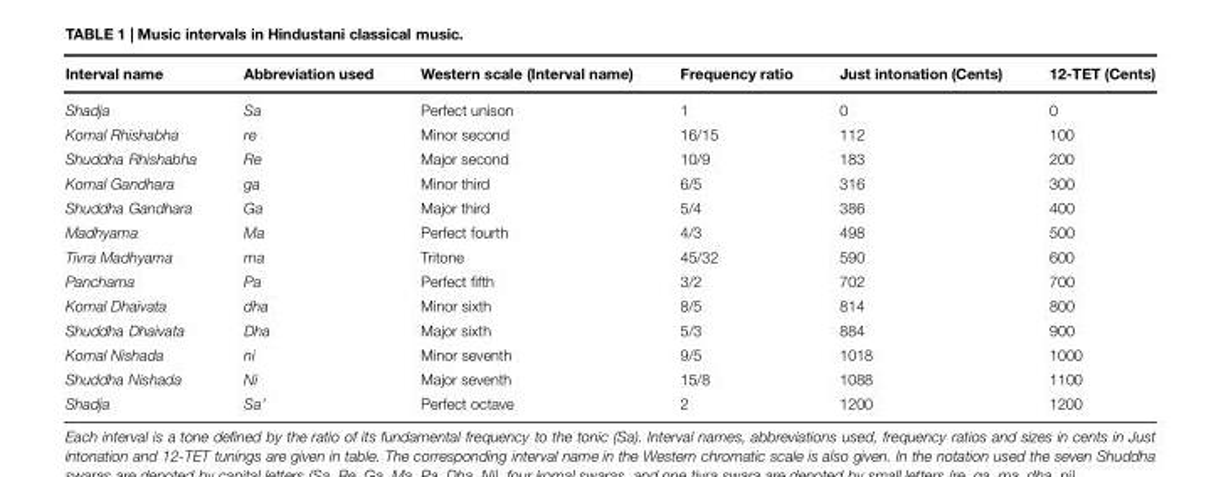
<table><thead><tr><td>Interval name</td><td>Abbreviation used</td><td>Western scale (Interval name)</td><td>Frequency ratio</td><td>Just intonation (Cents)</td><td>12-TET (Cents)</td></tr></thead><tbody><tr><td>Shadja</td><td>Sa</td><td>Perfect unison</td><td>1</td><td>0</td><td>0</td></tr><tr><td>Komal Rhishabha</td><td>re</td><td>Minor second</td><td>16/15</td><td>112</td><td>100</td></tr><tr><td>Shuddha Rhishabha</td><td>Re</td><td>Major second</td><td>10/9</td><td>183</td><td>200</td></tr><tr><td>Komal Gandhara</td><td>ga</td><td>Minor third</td><td>6/5</td><td>316</td><td>300</td></tr><tr><td>Shuddha Gandhara</td><td>Ga</td><td>Major third</td><td>5/4</td><td>386</td><td>400</td></tr><tr><td>Madhyama</td><td>Ma</td><td>Perfect fourth</td><td>4/3</td><td>498</td><td>500</td></tr><tr><td>Tivra Madhyama</td><td>ma</td><td>Tritone</td><td>45/32</td><td>590</td><td>600</td></tr><tr><td>Panchama</td><td>Pa</td><td>Perfect fifth</td><td>3/2</td><td>702</td><td>700</td></tr><tr><td>Komal Dhaivata</td><td>dha</td><td>Minor sixth</td><td>8/5</td><td>814</td><td>800</td></tr><tr><td>Shuddha Dhaivata</td><td>Dha</td><td>Major sixth</td><td>5/3</td><td>884</td><td>900</td></tr><tr><td>Komal Nishada</td><td>ni</td><td>Minor seventh</td><td>9/5</td><td>1018</td><td>1000</td></tr><tr><td>Shuddha Nishada</td><td>Ni</td><td>Major seventh</td><td>15/8</td><td>1088</td><td>1100</td></tr><tr><td>Shadja</td><td>Sa’</td><td>Perfect octave</td><td>2</td><td>1200</td><td>1200</td></tr></tbody></table>